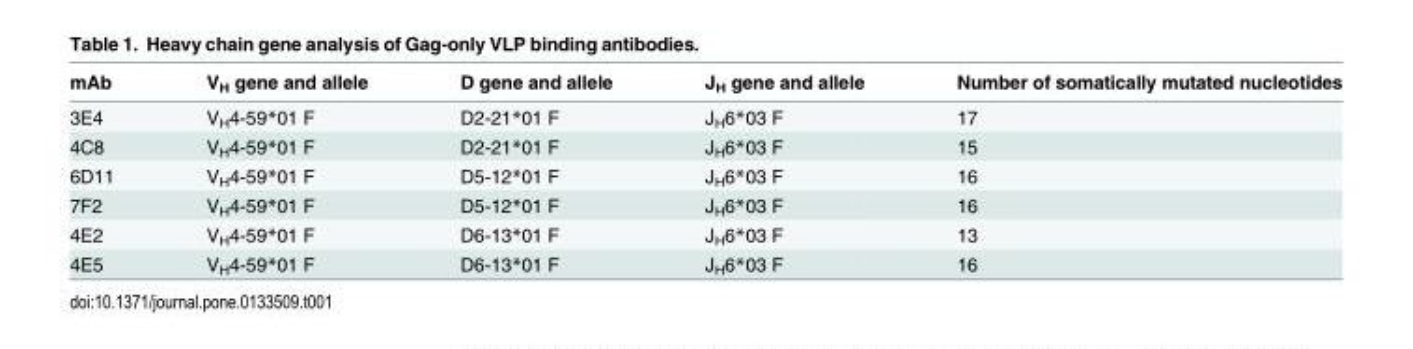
<table><thead><tr><td>mAb</td><td>V<sub>H</sub> gene and allele</td><td>D gene and allele</td><td>J<sub>H</sub> gene and allele</td><td>Number of somatically mutated nucleotides</td></tr></thead><tbody><tr><td>3E4</td><td>V<sub>H</sub>4-59*01 F</td><td>D2-21*01 F</td><td>J<sub>H</sub>6*03 F</td><td>17</td></tr><tr><td>4C8</td><td>V<sub>H</sub>4-59*01 F</td><td>D2-21*01 F</td><td>J<sub>H</sub>6*03 F</td><td>15</td></tr><tr><td>6D11</td><td>V<sub>H</sub>4-59*01 F</td><td>D5-12*01 F</td><td>J<sub>H</sub>6*03 F</td><td>16</td></tr><tr><td>7F2</td><td>V<sub>H</sub>4-59*01 F</td><td>D5-12*01 F</td><td>J<sub>H</sub>6*03 F</td><td>16</td></tr><tr><td>4E2</td><td>V<sub>H</sub>4-59*01 F</td><td>D6-13*01 F</td><td>J<sub>H</sub>6*03 F</td><td>13</td></tr><tr><td>4E5</td><td>V<sub>H</sub>4-59*01 F</td><td>D6-13*01 F</td><td>J<sub>H</sub>6*03 F</td><td>16</td></tr></tbody></table>